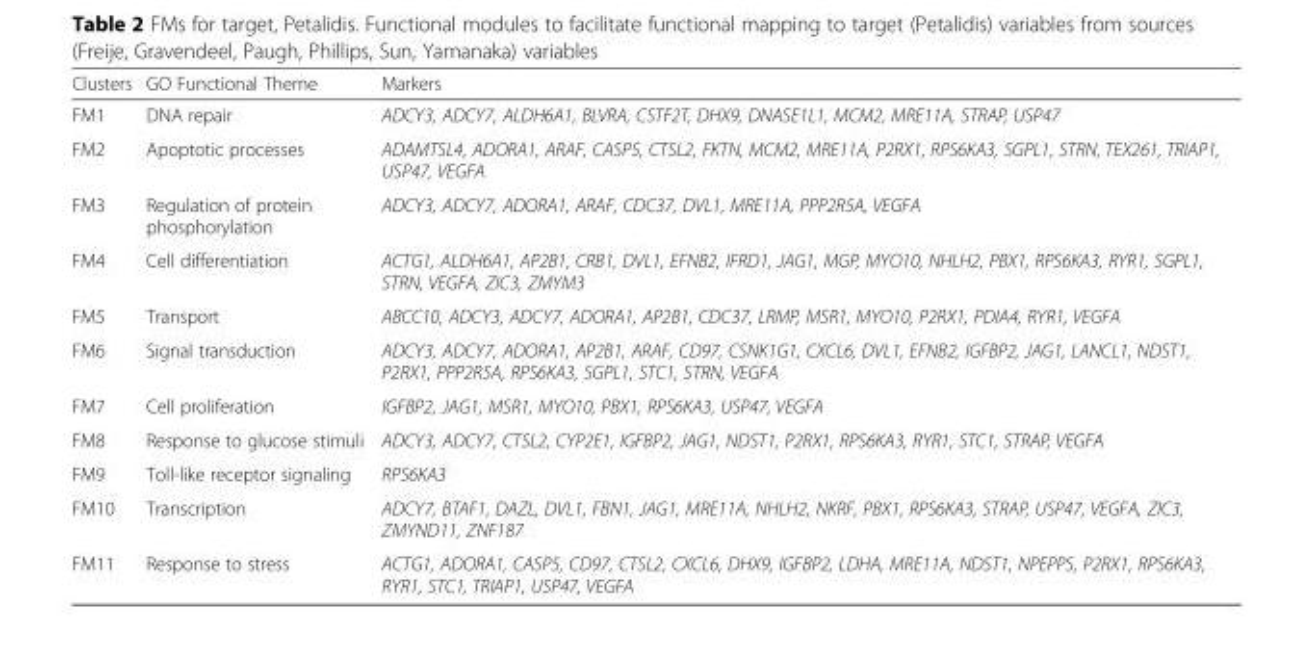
<table><thead><tr><td>Clusters</td><td>GO Functional Theme</td><td>Markers</td></tr></thead><tbody><tr><td>FM1</td><td>DNA repair</td><td>ADCY3, ADCY7, ALDH6A1, BLVRA, CSTF2T, DHX9, DNASE1L1, MCM2, MRE11A, STRAP, USP47</td></tr><tr><td>FM2</td><td>Apoptotic processes</td><td>ADAMTSL4, ADORA1, ARAF, CASP5, CTSL2, FKTN, MCM2, MRE11A, P2RX1, RPS6KA3, SGPL1, STRN, TEX261, TRIAP1, USP47, VEGFA</td></tr><tr><td>FM3</td><td>Regulation of protein phosphorylation</td><td>ADCY3, ADCY7, ADORA1, ARAF, CDC37, DVL1, MRE11A, PPP2R5A, VEGFA</td></tr><tr><td>FM4</td><td>Cell differentiation</td><td>ACTG1, ALDH6A1, AP2B1, CRB1, DVL1, EFNB2, IFRD1, JAG1, MGP, MYO10, NHLH2, PBX1, RPS6KA3, RYR1, SGPL1, STRN, VEGFA, ZIC3, ZMYM3</td></tr><tr><td>FM5</td><td>Transport</td><td>ABCC10, ADCY3, ADCY7, ADORA1, AP2B1, CDC37, LRMP, MSR1, MYO10, P2RX1, PDIA4, RYR1, VEGFA</td></tr><tr><td>FM6</td><td>Signal transduction</td><td>ADCY3, ADCY7, ADORA1, AP2B1, ARAF, CD97, CSNK1G1, CXCL6, DVL1, EFNB2, IGFBP2, JAG1, LANCL1, NDST1, P2RX1, PPP2R5A, RPS6KA3, SGPL1, STC1, STRN, VEGFA</td></tr><tr><td>FM7</td><td>Cell proliferation</td><td>IGFBP2, JAG1, MSR1, MYO10, PBX1, RPS6KA3, USP47, VEGFA</td></tr><tr><td>FM8</td><td>Response to glucose stimuli</td><td>ADCY3, ADCY7, CTSL2, CYP2E1, IGFBP2, JAG1, NDST1, P2RX1, RPS6KA3, RYR1, STC1, STRAP, VEGFA</td></tr><tr><td>FM9</td><td>Toll-like receptor signaling</td><td>RPS6KA3</td></tr><tr><td>FM10</td><td>Transcription</td><td>ADCY7, BTAF1, DAZL, DVL1, FBN1, JAG1, MRE11A, NHLH2, NKRF, PBX1, RPS6KA3, STRAP, USP47, VEGFA, ZIC3, ZMYND11, ZNF187</td></tr><tr><td>FM11</td><td>Response to stress</td><td>ACTG1, ADORA1, CASP5, CD97, CTSL2, CXCL6, DHX9, IGFBP2, LDHA, MRE11A, NDST1, NPEPPS, P2RX1, RPS6KA3, RYR1, STC1, TRIAP1, USP47, VEGFA</td></tr></tbody></table>